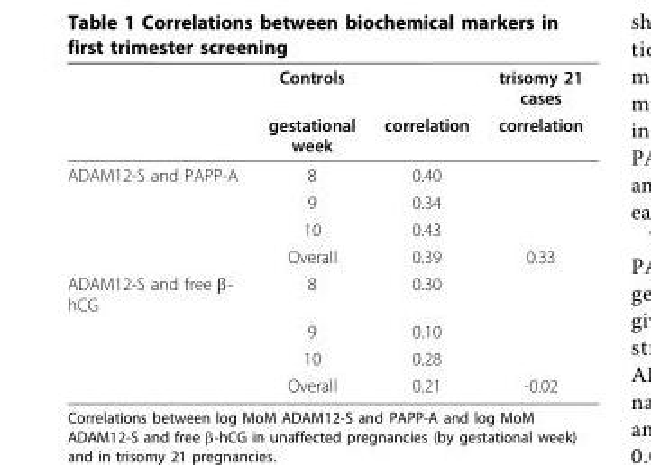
<table><thead><tr><td rowspan="2"></td><td rowspan="2">Controls gestational week</td><td rowspan="2">correlation</td><td rowspan="2">trisomy 21 cases correlation</td></tr><tr></tr></thead><tbody><tr><td rowspan="4">ADAM12-S and PAPP-A</td><td>8</td><td>0.40</td><td></td></tr><tr><td>9</td><td>0.34</td><td></td></tr><tr><td>10</td><td>0.43</td><td></td></tr><tr><td>Overall</td><td>0.39</td><td>0.33</td></tr><tr><td rowspan="4">ADAM12-S and free β- hCG</td><td>8</td><td>0.30</td><td></td></tr><tr><td>9</td><td>0.10</td><td></td></tr><tr><td>10</td><td>0.28</td><td></td></tr><tr><td>Overall</td><td>0.21</td><td>-0.02</td></tr></tbody></table>